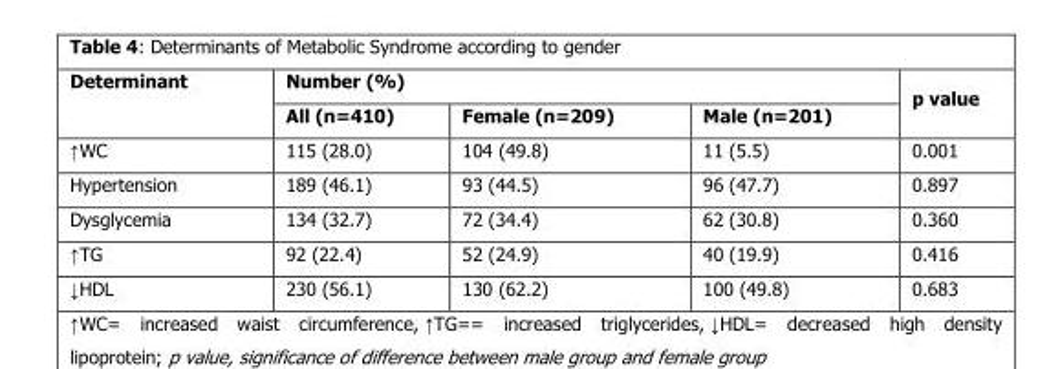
<table><thead><tr><td rowspan="2">Determinant</td><td colspan="3">Number (%)</td><td rowspan="2">p value</td></tr><tr><td>All (n=410)</td><td>Female (n=209)</td><td>Male (n=201)</td></tr></thead><tbody><tr><td>↑WC</td><td>115 (28.0)</td><td>104 (49.8)</td><td>11 (5.5)</td><td>0.001</td></tr><tr><td>Hypertension</td><td>189 (46.1)</td><td>93 (44.5)</td><td>96 (47.7)</td><td>0.897</td></tr><tr><td>Dysglycemia</td><td>134 (32.7)</td><td>72 (34.4)</td><td>62 (30.8)</td><td>0.360</td></tr><tr><td>↑TG</td><td>92 (22.4)</td><td>52 (24.9)</td><td>40 (19.9)</td><td>0.416</td></tr><tr><td>↓HDL</td><td>230 (56.1)</td><td>130 (62.2)</td><td>100 (49.8)</td><td>0.683</td></tr></tbody></table>